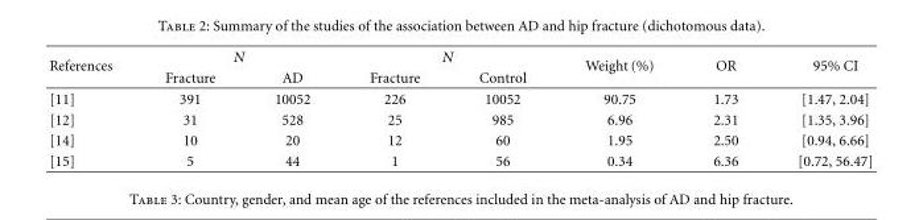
<table><thead><tr><td rowspan="2">References</td><td colspan="2">N</td><td colspan="2">N</td><td rowspan="2">Weight (%)</td><td rowspan="2">OR</td><td rowspan="2">95% CI</td></tr><tr><td>Fracture</td><td>AD</td><td>Fracture</td><td>Control</td></tr></thead><tbody><tr><td>[11]</td><td>391</td><td>10052</td><td>226</td><td>10052</td><td>90.75</td><td>1.73</td><td>[1.47, 2.04]</td></tr><tr><td>[12]</td><td>31</td><td>528</td><td>25</td><td>985</td><td>6.96</td><td>2.31</td><td>[1.35, 3.96]</td></tr><tr><td>[14]</td><td>10</td><td>20</td><td>12</td><td>60</td><td>1.95</td><td>2.50</td><td>[0.94, 6.66]</td></tr><tr><td>[15]</td><td>5</td><td>44</td><td>1</td><td>56</td><td>0.34</td><td>6.36</td><td>[0.72, 56.47]</td></tr></tbody></table>